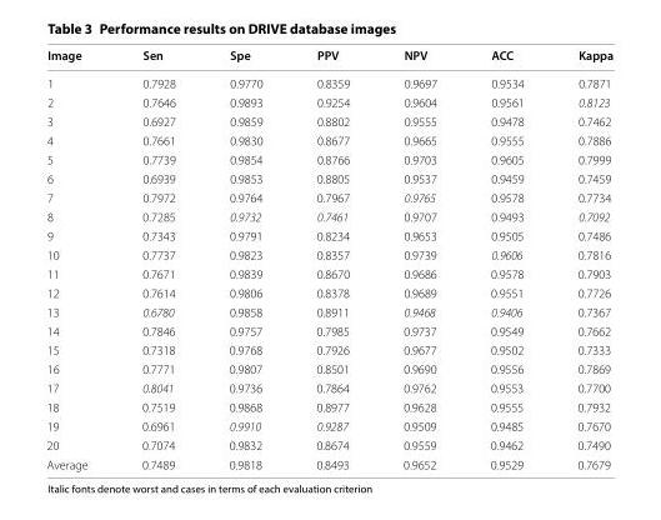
<table><thead><tr><td>Image</td><td>Sen</td><td>Spe</td><td>PPV</td><td>NPV</td><td>ACC</td><td>Kappa</td></tr></thead><tbody><tr><td>1</td><td>0.7928</td><td>0.9770</td><td>0.8359</td><td>0.9697</td><td>0.9534</td><td>0.7871</td></tr><tr><td>2</td><td>0.7646</td><td>0.9893</td><td>0.9254</td><td>0.9604</td><td>0.9561</td><td>0.8123</td></tr><tr><td>3</td><td>0.6927</td><td>0.9859</td><td>0.8802</td><td>0.9555</td><td>0.9478</td><td>0.7462</td></tr><tr><td>4</td><td>0.7661</td><td>0.9830</td><td>0.8677</td><td>0.9665</td><td>0.9555</td><td>0.7886</td></tr><tr><td>5</td><td>0.7739</td><td>0.9854</td><td>0.8766</td><td>0.9703</td><td>0.9605</td><td>0.7999</td></tr><tr><td>6</td><td>0.6939</td><td>0.9853</td><td>0.8805</td><td>0.9537</td><td>0.9459</td><td>0.7459</td></tr><tr><td>7</td><td>0.7972</td><td>0.9764</td><td>0.7967</td><td>0.9765</td><td>0.9578</td><td>0.7734</td></tr><tr><td>8</td><td>0.7285</td><td>0.9732</td><td>0.7461</td><td>0.9707</td><td>0.9493</td><td>0.7092</td></tr><tr><td>9</td><td>0.7343</td><td>0.9791</td><td>0.8234</td><td>0.9653</td><td>0.9505</td><td>0.7486</td></tr><tr><td>10</td><td>0.7737</td><td>0.9823</td><td>0.8357</td><td>0.9739</td><td>0.9606</td><td>0.7816</td></tr><tr><td>11</td><td>0.7671</td><td>0.9839</td><td>0.8670</td><td>0.9686</td><td>0.9578</td><td>0.7903</td></tr><tr><td>12</td><td>0.7614</td><td>0.9806</td><td>0.8378</td><td>0.9689</td><td>0.9551</td><td>0.7726</td></tr><tr><td>13</td><td>0.6780</td><td>0.9858</td><td>0.8911</td><td>0.9468</td><td>0.9406</td><td>0.7367</td></tr><tr><td>14</td><td>0.7846</td><td>0.9757</td><td>0.7985</td><td>0.9737</td><td>0.9549</td><td>0.7662</td></tr><tr><td>15</td><td>0.7318</td><td>0.9768</td><td>0.7926</td><td>0.9677</td><td>0.9502</td><td>0.7333</td></tr><tr><td>16</td><td>0.7771</td><td>0.9807</td><td>0.8501</td><td>0.9690</td><td>0.9556</td><td>0.7869</td></tr><tr><td>17</td><td>0.8041</td><td>0.9736</td><td>0.7864</td><td>0.9762</td><td>0.9553</td><td>0.7700</td></tr><tr><td>18</td><td>0.7519</td><td>0.9868</td><td>0.8977</td><td>0.9628</td><td>0.9555</td><td>0.7932</td></tr><tr><td>19</td><td>0.6961</td><td>0.9910</td><td>0.9287</td><td>0.9509</td><td>0.9485</td><td>0.7670</td></tr><tr><td>20</td><td>0.7074</td><td>0.9832</td><td>0.8674</td><td>0.9559</td><td>0.9462</td><td>0.7490</td></tr><tr><td>Average</td><td>0.7489</td><td>0.9818</td><td>0.8493</td><td>0.9652</td><td>0.9529</td><td>0.7679</td></tr></tbody></table>